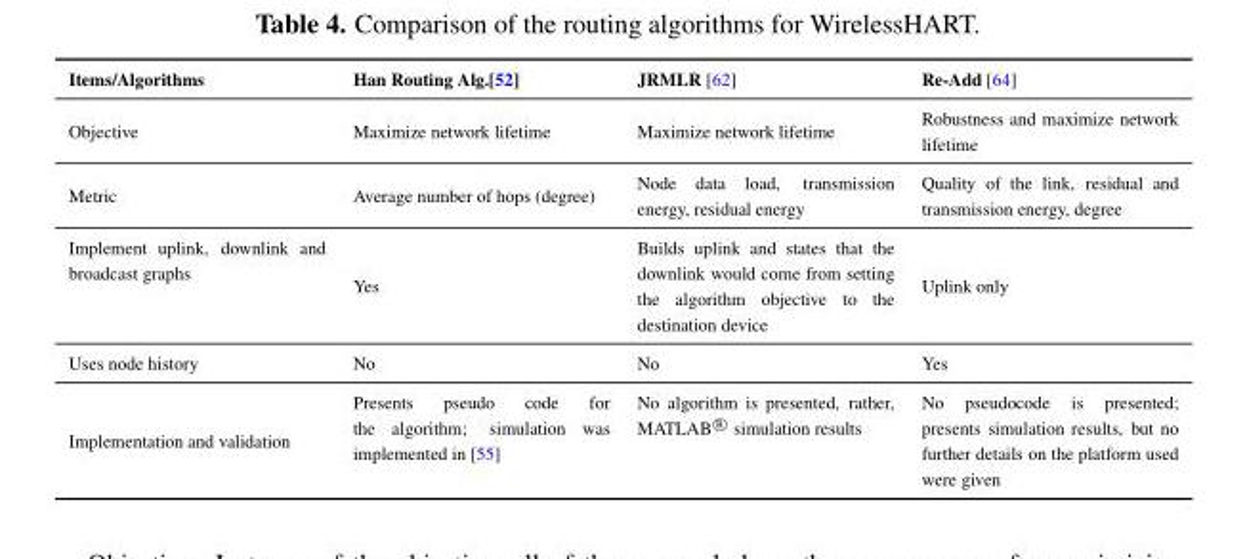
<table><thead><tr><td>Items/Algorithms</td><td>Han Routing Alg.[52]</td><td>JRMLR [62]</td><td>Re-Add [64]</td></tr></thead><tbody><tr><td>Objective</td><td>Maximize network lifetime</td><td>Maximize network lifetime</td><td>Robustness and maximize network lifetime</td></tr><tr><td>Metric</td><td>Average number of hops (degree)</td><td>Node data load, transmission energy, residual energy</td><td>Quality of the link, residual and transmission energy, degree</td></tr><tr><td>Implement uplink, downlink and broadcast graphs</td><td>Yes</td><td>Builds uplink and states that the downlink would come from setting the algorithm objective to the destination device</td><td>Uplink only</td></tr><tr><td>Uses node history</td><td>No</td><td>No</td><td>Yes</td></tr><tr><td>Implementation and validation</td><td>Presents pseudo code for the algorithm; simulation was implemented in [55]</td><td>No algorithm is presented, rather, MATLAB R ⃝ simulation results</td><td>No pseudocode is presented; presents simulation results, but no further details on the platform used were given</td></tr></tbody></table>